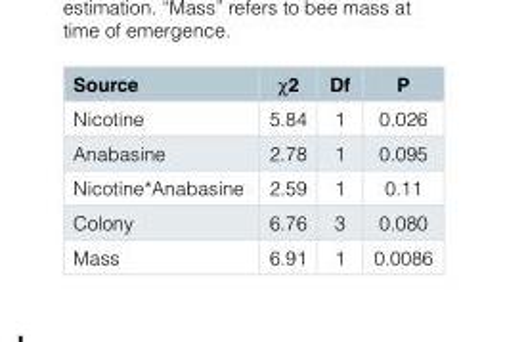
<table><thead><tr><td>Source</td><td>χ2</td><td>Df</td><td>P</td></tr></thead><tbody><tr><td>Nicotine</td><td>5.84</td><td>1</td><td>0.026</td></tr><tr><td>Anabasine</td><td>2.78</td><td>1</td><td>0.095</td></tr><tr><td>Nicotine*Anabasine</td><td>2.59</td><td>1</td><td>0.11</td></tr><tr><td>Colony</td><td>6.76</td><td>3</td><td>0.080</td></tr><tr><td>Mass</td><td>6.91</td><td>1</td><td>0.0086</td></tr></tbody></table>